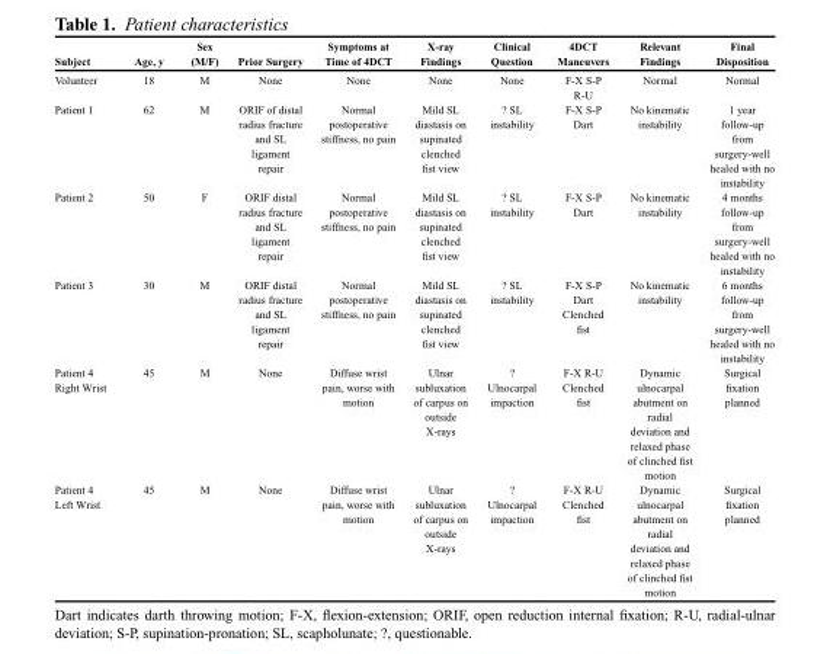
<table><thead><tr><td>Subject</td><td>Age, y</td><td>(M/F)</td><td>Prior Surgery</td><td>Time of 4DCT</td><td>Findings</td><td>Question</td><td>Maneuvers</td><td>Findings</td><td>Disposition</td></tr></thead><tbody><tr><td>Volunteer</td><td>18</td><td>M</td><td>None</td><td>None</td><td>None</td><td>None</td><td>F-X S-P R-U</td><td>Normal</td><td>Normal</td></tr><tr><td>Patient 1</td><td>62</td><td>M</td><td>ORIF of distal radius fracture and SL ligament repair</td><td>Normal postoperative stiffness, no pain</td><td>Mild SL diastasis on supinated clenched fist view</td><td>? SL instability</td><td>F-X S-P Dart</td><td>No kinematic instability</td><td>1 year follow-up from surgery-well healed with no instability</td></tr><tr><td>Patient 2</td><td>50</td><td>F</td><td>ORIF distal radius fracture and SL ligament repair</td><td>Normal postoperative stiffness, no pain</td><td>Mild SL diastasis on supinated clenched fist view</td><td>? SL instability</td><td>F-X S-P Dart</td><td>No kinematic instability</td><td>4 months follow-up from surgery-well healed with no instability</td></tr><tr><td>Patient 3</td><td>30</td><td>M</td><td>ORIF distal radius fracture and SL ligament repair</td><td>Normal postoperative stiffness, no pain</td><td>Mild SL diastasis on supinated clenched fist view</td><td>? SL instability</td><td>F-X S-P Dart Clenched fist</td><td>No kinematic instability</td><td>6 months follow-up from surgery-well healed with no instability</td></tr><tr><td>Patient 4 Right Wrist</td><td>45</td><td>M</td><td>None</td><td>Diffuse wrist pain, worse with motion</td><td>Ulnar subluxation of carpus on outside X-rays</td><td>? Ulnocarpal impaction</td><td>F-X R-U Clenched fist</td><td>Dynamic ulnocarpal abutment on radial deviation and relaxed phase of clinched fist motion</td><td>Surgical fixation planned</td></tr><tr><td>Patient 4 Left Wrist</td><td>45</td><td>M</td><td>None</td><td>Diffuse wrist pain, worse with motion</td><td>Ulnar subluxation of carpus on outside X-rays</td><td>? Ulnocarpal impaction</td><td>F-X R-U Clenched fist</td><td>Dynamic ulnocarpal abutment on radial deviation and relaxed phase of clinched fist motion</td><td>Surgical fixation planned</td></tr></tbody></table>